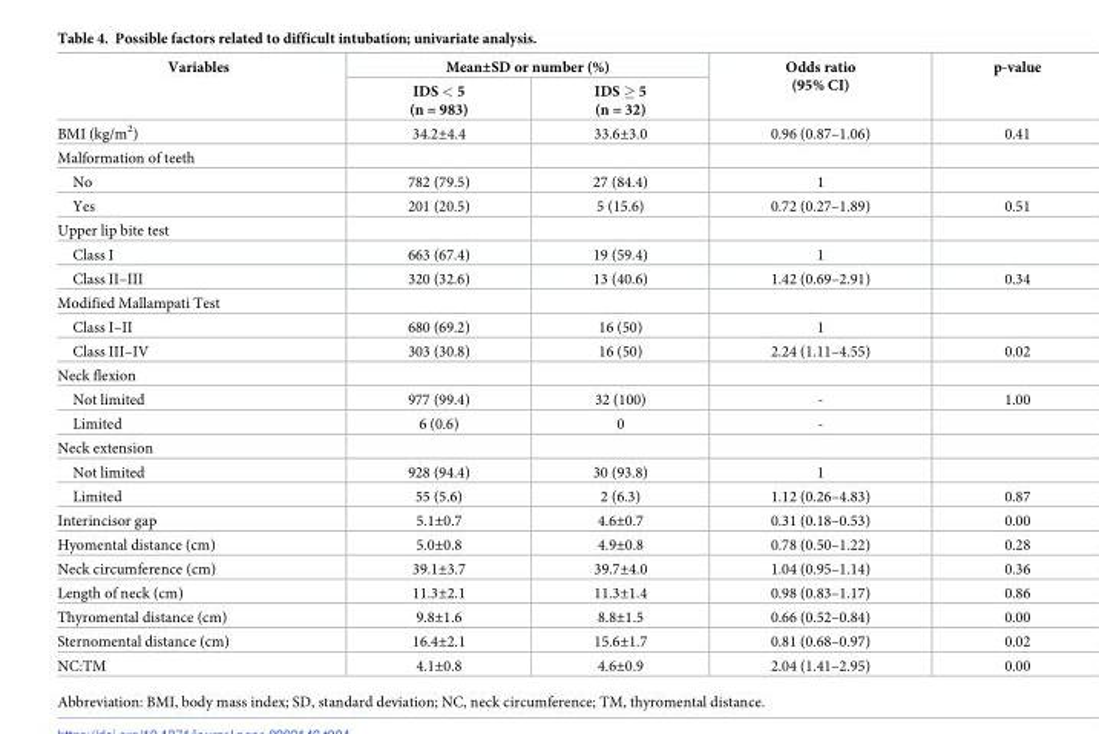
<table><thead><tr><td rowspan="2">Variables</td><td colspan="2">Mean±SD or number (%)</td><td rowspan="2">Odds ratio (95% CI)</td><td rowspan="2">p-value</td></tr><tr><td>IDS &lt; 5 (n = 983)</td><td>IDS ≥ 5 (n = 32)</td></tr></thead><tbody><tr><td>BMI (kg/m<sup>2</sup>)</td><td>34.2±4.4</td><td>33.6±3.0</td><td>0.96 (0.87–1.06)</td><td>0.41</td></tr><tr><td colspan="5">Malformation of teeth</td></tr><tr><td>No</td><td>782 (79.5)</td><td>27 (84.4)</td><td>1</td><td></td></tr><tr><td>Yes</td><td>201 (20.5)</td><td>5 (15.6)</td><td>0.72 (0.27–1.89)</td><td>0.51</td></tr><tr><td colspan="5">Upper lip bite test</td></tr><tr><td>Class I</td><td>663 (67.4)</td><td>19 (59.4)</td><td>1</td><td></td></tr><tr><td>Class II–III</td><td>320 (32.6)</td><td>13 (40.6)</td><td>1.42 (0.69–2.91)</td><td>0.34</td></tr><tr><td colspan="5">Modified Mallampati Test</td></tr><tr><td>Class I–II</td><td>680 (69.2)</td><td>16 (50)</td><td>1</td><td></td></tr><tr><td>Class III–IV</td><td>303 (30.8)</td><td>16 (50)</td><td>2.24 (1.11–4.55)</td><td>0.02</td></tr><tr><td colspan="5">Neck flexion</td></tr><tr><td>Not limited</td><td>977 (99.4)</td><td>32 (100)</td><td>-</td><td>1.00</td></tr><tr><td>Limited</td><td>6 (0.6)</td><td>0</td><td>-</td><td></td></tr><tr><td colspan="5">Neck extension</td></tr><tr><td>Not limited</td><td>928 (94.4)</td><td>30 (93.8)</td><td>1</td><td></td></tr><tr><td>Limited</td><td>55 (5.6)</td><td>2 (6.3)</td><td>1.12 (0.26–4.83)</td><td>0.87</td></tr><tr><td>Interincisor gap</td><td>5.1±0.7</td><td>4.6±0.7</td><td>0.31 (0.18–0.53)</td><td>0.00</td></tr><tr><td>Hyomental distance (cm)</td><td>5.0±0.8</td><td>4.9±0.8</td><td>0.78 (0.50–1.22)</td><td>0.28</td></tr><tr><td>Neck circumference (cm)</td><td>39.1±3.7</td><td>39.7±4.0</td><td>1.04 (0.95–1.14)</td><td>0.36</td></tr><tr><td>Length of neck (cm)</td><td>11.3±2.1</td><td>11.3±1.4</td><td>0.98 (0.83–1.17)</td><td>0.86</td></tr><tr><td>Thyromental distance (cm)</td><td>9.8±1.6</td><td>8.8±1.5</td><td>0.66 (0.52–0.84)</td><td>0.00</td></tr><tr><td>Sternomental distance (cm)</td><td>16.4±2.1</td><td>15.6±1.7</td><td>0.81 (0.68–0.97)</td><td>0.02</td></tr><tr><td>NC:TM</td><td>4.1±0.8</td><td>4.6±0.9</td><td>2.04 (1.41–2.95)</td><td>0.00</td></tr></tbody></table>